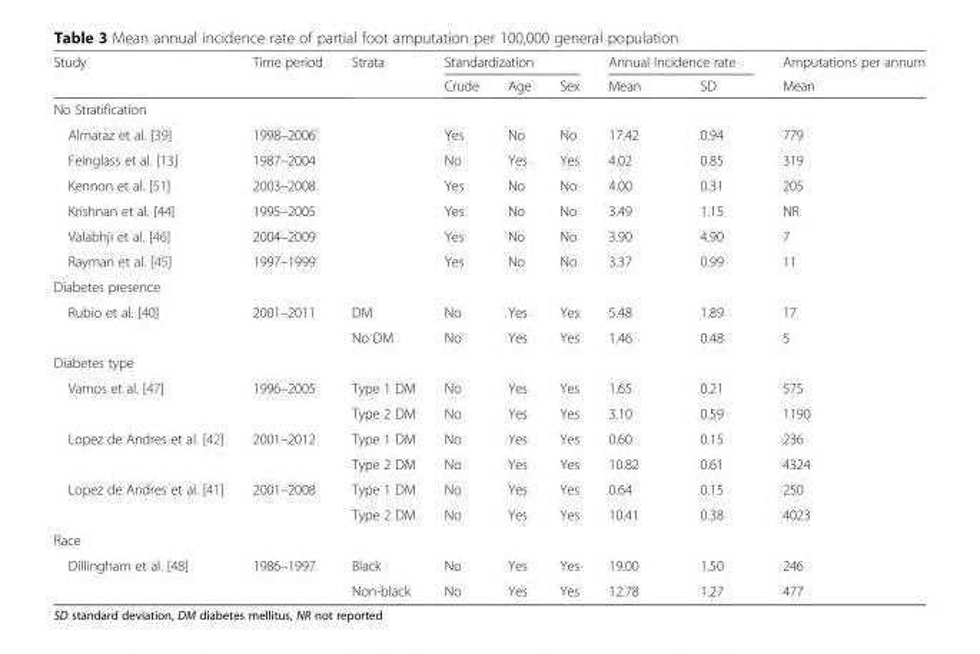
<table><thead><tr><td rowspan="2">Study</td><td rowspan="2">Time period</td><td rowspan="2">Strata</td><td colspan="3">Standardization</td><td colspan="2">Annual Incidence rate</td><td rowspan="2">Amputations per annum Mean</td></tr><tr><td>Crude</td><td>Age</td><td>Sex</td><td>Mean</td><td>SD</td></tr></thead><tbody><tr><td colspan="9">No Stratification</td></tr><tr><td>Almaraz et al. [39]</td><td>1998–2006</td><td></td><td>Yes</td><td>No</td><td>No</td><td>17.42</td><td>0.94</td><td>779</td></tr><tr><td>Feinglass et al. [13]</td><td>1987–2004</td><td></td><td>No</td><td>Yes</td><td>Yes</td><td>4.02</td><td>0.85</td><td>319</td></tr><tr><td>Kennon et al. [51]</td><td>2003–2008</td><td></td><td>Yes</td><td>No</td><td>No</td><td>4.00</td><td>0.31</td><td>205</td></tr><tr><td>Krishnan et al. [44]</td><td>1995–2005</td><td></td><td>Yes</td><td>No</td><td>No</td><td>3.49</td><td>1.15</td><td>NR</td></tr><tr><td>Valabhji et al. [46]</td><td>2004–2009</td><td></td><td>Yes</td><td>No</td><td>No</td><td>3.90</td><td>4.90</td><td>7</td></tr><tr><td>Rayman et al. [45]</td><td>1997–1999</td><td></td><td>Yes</td><td>No</td><td>No</td><td>3.37</td><td>0.99</td><td>11</td></tr><tr><td colspan="9">Diabetes presence</td></tr><tr><td rowspan="2">Rubio et al. [40]</td><td>2001–2011</td><td>DM</td><td>No</td><td>Yes</td><td>Yes</td><td>5.48</td><td>1.89</td><td>17</td></tr><tr><td></td><td>No DM</td><td>No</td><td>Yes</td><td>Yes</td><td>1.46</td><td>0.48</td><td>5</td></tr><tr><td colspan="9">Diabetes type</td></tr><tr><td rowspan="2">Vamos et al. [47]</td><td>1996–2005</td><td>Type 1 DM</td><td>No</td><td>Yes</td><td>Yes</td><td>1.65</td><td>0.21</td><td>575</td></tr><tr><td></td><td>Type 2 DM</td><td>No</td><td>Yes</td><td>Yes</td><td>3.10</td><td>0.59</td><td>1190</td></tr><tr><td rowspan="2">Lopez de Andres et al. [42]</td><td>2001–2012</td><td>Type 1 DM</td><td>No</td><td>Yes</td><td>Yes</td><td>0.60</td><td>0.15</td><td>236</td></tr><tr><td></td><td>Type 2 DM</td><td>No</td><td>Yes</td><td>Yes</td><td>10.82</td><td>0.61</td><td>4324</td></tr><tr><td rowspan="2">Lopez de Andres et al. [41]</td><td>2001–2008</td><td>Type 1 DM</td><td>No</td><td>Yes</td><td>Yes</td><td>0.64</td><td>0.15</td><td>250</td></tr><tr><td></td><td>Type 2 DM</td><td>No</td><td>Yes</td><td>Yes</td><td>10.41</td><td>0.38</td><td>4023</td></tr><tr><td colspan="9">Race</td></tr><tr><td rowspan="2">Dillingham et al. [48]</td><td>1986–1997</td><td>Black</td><td>No</td><td>Yes</td><td>Yes</td><td>19.00</td><td>1.50</td><td>246</td></tr><tr><td></td><td>Non-black</td><td>No</td><td>Yes</td><td>Yes</td><td>12.78</td><td>1.27</td><td>477</td></tr></tbody></table>